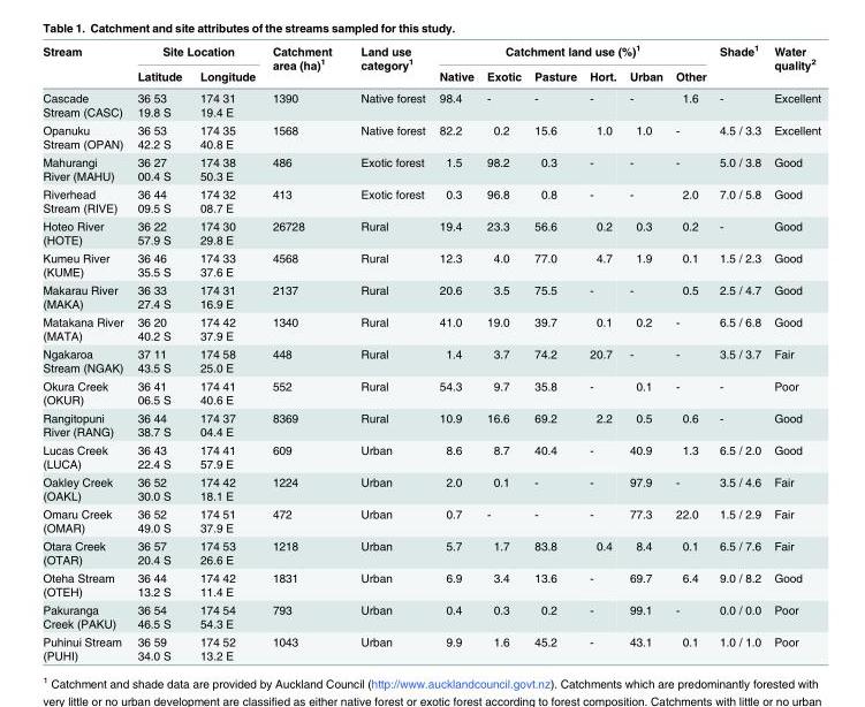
<table><thead><tr><td rowspan="2">Stream</td><td colspan="2">Site Location</td><td rowspan="2">Catchment area (ha)<sup>1</sup></td><td rowspan="2">Land use category<sup>1</sup></td><td colspan="6">Catchment land use (%)<sup>1</sup></td><td rowspan="2">Shade<sup>1</sup></td><td rowspan="2">Water quality<sup>2</sup></td></tr><tr><td>Latitude</td><td>Longitude</td><td>Native</td><td>Exotic</td><td>Pasture</td><td>Hort.</td><td>Urban</td><td>Other</td></tr></thead><tbody><tr><td>Cascade Stream (CASC)</td><td>36 53 19.8 S</td><td>174 31 19.4 E</td><td>1390</td><td>Native forest</td><td>98.4</td><td>-</td><td>-</td><td>-</td><td>-</td><td>1.6</td><td>-</td><td>Excellent</td></tr><tr><td>Opanuku Stream (OPAN)</td><td>36 53 42.2 S</td><td>174 35 40.8 E</td><td>1568</td><td>Native forest</td><td>82.2</td><td>0.2</td><td>15.6</td><td>1.0</td><td>1.0</td><td>-</td><td>4.5 / 3.3</td><td>Excellent</td></tr><tr><td>Mahurangi River (MAHU)</td><td>36 27 00.4 S</td><td>174 38 50.3 E</td><td>486</td><td>Exotic forest</td><td>1.5</td><td>98.2</td><td>0.3</td><td>-</td><td>-</td><td>-</td><td>5.0 / 3.8</td><td>Good</td></tr><tr><td>Riverhead Stream (RIVE)</td><td>36 44 09.5 S</td><td>174 32 08.7 E</td><td>413</td><td>Exotic forest</td><td>0.3</td><td>96.8</td><td>0.8</td><td>-</td><td>-</td><td>2.0</td><td>7.0 / 5.8</td><td>Good</td></tr><tr><td>Hoteo River (HOTE)</td><td>36 22 57.9 S</td><td>174 30 29.8 E</td><td>26728</td><td>Rural</td><td>19.4</td><td>23.3</td><td>56.6</td><td>0.2</td><td>0.3</td><td>0.2</td><td>-</td><td>Good</td></tr><tr><td>Kumeu River (KUME)</td><td>36 46 35.5 S</td><td>174 33 37.6 E</td><td>4568</td><td>Rural</td><td>12.3</td><td>4.0</td><td>77.0</td><td>4.7</td><td>1.9</td><td>0.1</td><td>1.5 / 2.3</td><td>Good</td></tr><tr><td>Makarau River (MAKA)</td><td>36 33 27.4 S</td><td>174 31 16.9 E</td><td>2137</td><td>Rural</td><td>20.6</td><td>3.5</td><td>75.5</td><td>-</td><td>-</td><td>0.5</td><td>2.5 / 4.7</td><td>Good</td></tr><tr><td>Matakana River (MATA)</td><td>36 20 40.2 S</td><td>174 42 37.9 E</td><td>1340</td><td>Rural</td><td>41.0</td><td>19.0</td><td>39.7</td><td>0.1</td><td>0.2</td><td>-</td><td>6.5 / 6.8</td><td>Good</td></tr><tr><td>Ngakaroa Stream (NGAK)</td><td>37 11 43.5 S</td><td>174 58 25.0 E</td><td>448</td><td>Rural</td><td>1.4</td><td>3.7</td><td>74.2</td><td>20.7</td><td>-</td><td>-</td><td>3.5 / 3.7</td><td>Fair</td></tr><tr><td>Okura Creek (OKUR)</td><td>36 41 06.5 S</td><td>174 41 40.6 E</td><td>552</td><td>Rural</td><td>54.3</td><td>9.7</td><td>35.8</td><td>-</td><td>0.1</td><td>-</td><td>-</td><td>Poor</td></tr><tr><td>Rangitopuni River (RANG)</td><td>36 44 38.7 S</td><td>174 37 04.4 E</td><td>8369</td><td>Rural</td><td>10.9</td><td>16.6</td><td>69.2</td><td>2.2</td><td>0.5</td><td>0.6</td><td>-</td><td>Good</td></tr><tr><td>Lucas Creek (LUCA)</td><td>36 43 22.4 S</td><td>174 41 57.9 E</td><td>609</td><td>Urban</td><td>8.6</td><td>8.7</td><td>40.4</td><td>-</td><td>40.9</td><td>1.3</td><td>6.5 / 2.0</td><td>Good</td></tr><tr><td>Oakley Creek (OAKL)</td><td>36 52 30.0 S</td><td>174 42 18.1 E</td><td>1224</td><td>Urban</td><td>2.0</td><td>0.1</td><td>-</td><td>-</td><td>97.9</td><td>-</td><td>3.5 / 4.6</td><td>Fair</td></tr><tr><td>Omaru Creek (OMAR)</td><td>36 52 49.0 S</td><td>174 51 37.9 E</td><td>472</td><td>Urban</td><td>0.7</td><td>-</td><td>-</td><td>-</td><td>77.3</td><td>22.0</td><td>1.5 / 2.9</td><td>Fair</td></tr><tr><td>Otara Creek (OTAR)</td><td>36 57 20.4 S</td><td>174 53 26.6 E</td><td>1218</td><td>Urban</td><td>5.7</td><td>1.7</td><td>83.8</td><td>0.4</td><td>8.4</td><td>0.1</td><td>6.5 / 7.6</td><td>Fair</td></tr><tr><td>Oteha Stream (OTEH)</td><td>36 44 13.2 S</td><td>174 42 11.4 E</td><td>1831</td><td>Urban</td><td>6.9</td><td>3.4</td><td>13.6</td><td>-</td><td>69.7</td><td>6.4</td><td>9.0 / 8.2</td><td>Good</td></tr><tr><td>Pakuranga Creek (PAKU)</td><td>36 54 46.5 S</td><td>174 54 54.3 E</td><td>793</td><td>Urban</td><td>0.4</td><td>0.3</td><td>0.2</td><td>-</td><td>99.1</td><td>-</td><td>0.0 / 0.0</td><td>Poor</td></tr><tr><td>Puhinui Stream (PUHI)</td><td>36 59 34.0 S</td><td>174 52 13.2 E</td><td>1043</td><td>Urban</td><td>9.9</td><td>1.6</td><td>45.2</td><td>-</td><td>43.1</td><td>0.1</td><td>1.0 / 1.0</td><td>Poor</td></tr></tbody></table>